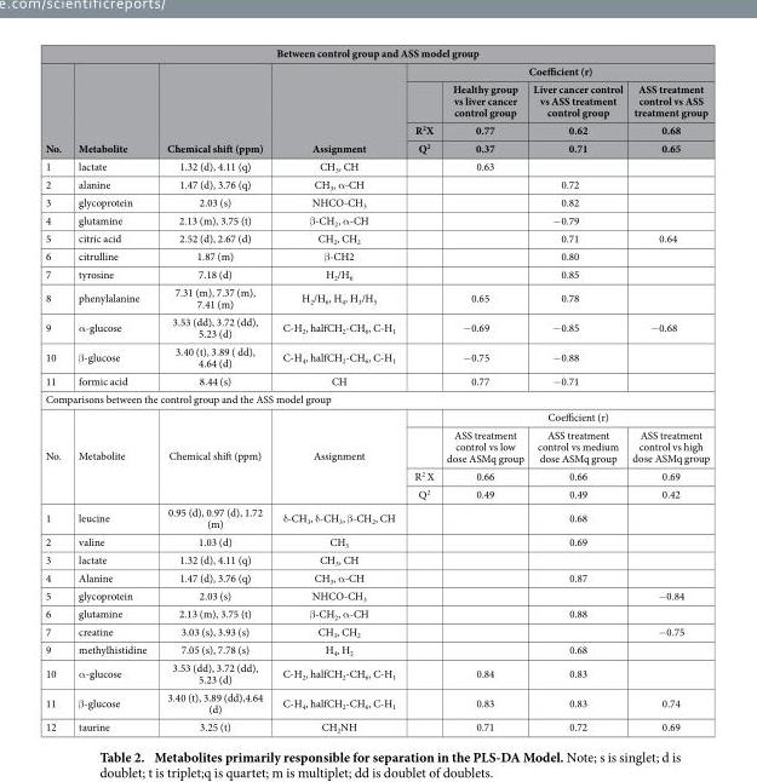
<table><thead><tr><td colspan="8">Between control group and ASS model group</td></tr><tr><td rowspan="4">No.</td><td rowspan="4">Metabolite</td><td rowspan="4">Chemical shift (ppm)</td><td rowspan="4">Assignment</td><td colspan="4">Coefficient (r)</td></tr><tr><td rowspan="3">R<sup>2</sup>X Q<sup>2</sup></td><td rowspan="3">Healthy group vs liver cancer control group 0.77 0.37</td><td rowspan="3">Liver cancer control vs ASS treatment control group 0.62 0.71</td><td rowspan="3">ASS treatment control vs ASS treatment group 0.68 0.65</td></tr><tr></tr><tr></tr></thead><tbody><tr><td>1</td><td>lactate</td><td>1.32 (d), 4.11 (q)</td><td>CH<sub>3</sub>, CH</td><td></td><td>0.63</td><td></td><td></td></tr><tr><td>2</td><td>alanine</td><td>1.47 (d), 3.76 (q)</td><td>CH<sub>3</sub>, α-CH</td><td></td><td></td><td>0.72</td><td></td></tr><tr><td>3</td><td>glycoprotein</td><td>2.03 (s)</td><td>NHCO-CH<sub>3</sub></td><td></td><td></td><td>0.82</td><td></td></tr><tr><td>4</td><td>glutamine</td><td>2.13 (m), 3.75 (t)</td><td>β-CH<sub>2</sub>, α-CH</td><td></td><td></td><td>−0.79</td><td></td></tr><tr><td>5</td><td>citric acid</td><td>2.52 (d), 2.67 (d)</td><td>CH<sub>2</sub>, CH<sub>2</sub></td><td></td><td></td><td>0.71</td><td>0.64</td></tr><tr><td>6</td><td>citrulline</td><td>1.87 (m)</td><td>β-CH2</td><td></td><td></td><td>0.80</td><td></td></tr><tr><td>7</td><td>tyrosine</td><td>7.18 (d)</td><td>H<sub>2</sub>/H<sub>6</sub></td><td></td><td></td><td>0.85</td><td></td></tr><tr><td>8</td><td>phenylalanine</td><td>7.31 (m), 7.37 (m), 7.41 (m)</td><td>H<sub>2</sub>/H<sub>6</sub>, H<sub>4</sub>, H<sub>3</sub>/H<sub>5</sub></td><td></td><td>0.65</td><td>0.78</td><td></td></tr><tr><td>9</td><td>α-glucose</td><td>3.53 (dd), 3.72 (dd), 5.23 (d)</td><td>C-H<sub>2</sub>, halfCH<sub>2</sub>-CH<sub>6</sub>, C-H<sub>1</sub></td><td></td><td>−0.69</td><td>−0.85</td><td>−0.68</td></tr><tr><td>10</td><td>β-glucose</td><td>3.40 (t), 3.89 ( dd), 4.64 (d)</td><td>C-H<sub>4</sub>, halfCH<sub>2</sub>-CH<sub>6</sub>, C-H<sub>1</sub></td><td></td><td>−0.75</td><td>−0.88</td><td></td></tr><tr><td>11</td><td>formic acid</td><td>8.44 (s)</td><td>CH</td><td></td><td>0.77</td><td>−0.71</td><td></td></tr><tr><td colspan="8">Comparisons between the control group and the ASS model group</td></tr><tr><td rowspan="4">No.</td><td rowspan="4">Metabolite</td><td rowspan="4">Chemical shift (ppm)</td><td rowspan="4">Assignment</td><td></td><td colspan="3">Coefficient (r)</td></tr><tr><td></td><td>ASS treatment control vs low dose ASMq group</td><td>ASS treatment control vs medium dose ASMq group</td><td>ASS treatment control vs high dose ASMq group</td></tr><tr><td>R<sup>2</sup> X</td><td>0.66</td><td>0.66</td><td>0.69</td></tr><tr><td>Q<sup>2</sup></td><td>0.49</td><td>0.49</td><td>0.42</td></tr><tr><td>1</td><td>leucine</td><td>0.95 (d), 0.97 (d), 1.72 (m)</td><td>δ-CH<sub>3</sub>, δ-CH<sub>3</sub>, β-CH<sub>2</sub>, CH</td><td></td><td></td><td>0.68</td><td></td></tr><tr><td>2</td><td>valine</td><td>1.03 (d)</td><td>CH<sub>3</sub></td><td></td><td></td><td>0.69</td><td></td></tr><tr><td>3</td><td>lactate</td><td>1.32 (d), 4.11 (q)</td><td>CH<sub>3</sub>, CH</td><td></td><td></td><td></td><td></td></tr><tr><td>4</td><td>Alanine</td><td>1.47 (d), 3.76 (q)</td><td>CH<sub>3</sub>, α-CH</td><td></td><td></td><td>0.87</td><td></td></tr><tr><td>5</td><td>glycoprotein</td><td>2.03 (s)</td><td>NHCO-CH<sub>3</sub></td><td></td><td></td><td></td><td>−0.84</td></tr><tr><td>6</td><td>glutamine</td><td>2.13 (m), 3.75 (t)</td><td>β-CH<sub>2</sub>, α-CH</td><td></td><td></td><td>0.88</td><td></td></tr><tr><td>7</td><td>creatine</td><td>3.03 (s), 3.93 (s)</td><td>CH<sub>3</sub>, CH<sub>2</sub></td><td></td><td></td><td></td><td>−0.75</td></tr><tr><td>9</td><td>methylhistidine</td><td>7.05 (s), 7.78 (s)</td><td>H<sub>4</sub>, H<sub>2</sub></td><td></td><td></td><td>0.68</td><td></td></tr><tr><td>10</td><td>α-glucose</td><td>3.53 (dd), 3.72 (dd), 5.23 (d)</td><td>C-H<sub>2</sub>, halfCH<sub>2</sub>-CH<sub>6</sub>, C-H<sub>1</sub></td><td></td><td>0.84</td><td>0.83</td><td></td></tr><tr><td>11</td><td>β-glucose</td><td>3.40 (t), 3.89 (dd),4.64 (d)</td><td>C-H<sub>4</sub>, halfCH<sub>2</sub>-CH<sub>6</sub>, C-H<sub>1</sub></td><td></td><td>0.83</td><td>0.83</td><td>0.74</td></tr><tr><td>12</td><td>taurine</td><td>3.25 (t)</td><td>CH<sub>2</sub>NH</td><td></td><td>0.71</td><td>0.72</td><td>0.69</td></tr></tbody></table>